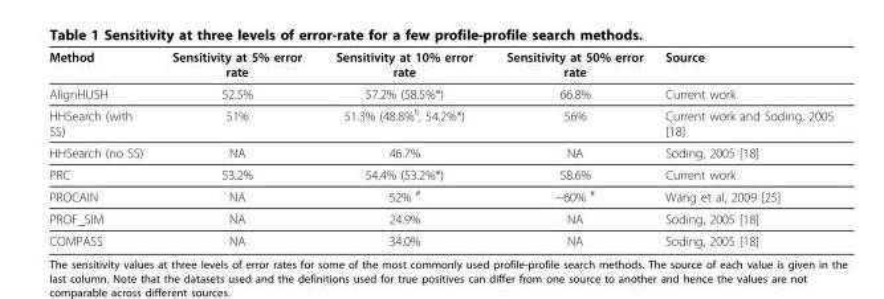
<table><thead><tr><td>Method</td><td>Sensitivity at 5% error rate</td><td>Sensitivity at 10% error rate</td><td>Sensitivity at 50% error rate</td><td>Source</td></tr></thead><tbody><tr><td>AlignHUSH</td><td>52.5%</td><td>57.2% (58.5%*)</td><td>66.8%</td><td>Current work</td></tr><tr><td>HHSearch (with SS)</td><td>51%</td><td>51.3% (48.8%<sup>§</sup>, 54.2%*)</td><td>56%</td><td>Current work and Soding, 2005 [18]</td></tr><tr><td>HHSearch (no SS)</td><td>NA</td><td>46.7%</td><td>NA</td><td>Soding, 2005 [18]</td></tr><tr><td>PRC</td><td>53.2%</td><td>54.4% (53.2%*)</td><td>58.6%</td><td>Current work</td></tr><tr><td>PROCAIN</td><td>NA</td><td>52% <sup>#</sup></td><td>~60% <sup>#</sup></td><td>Wang et al, 2009 [25]</td></tr><tr><td>PROF_SIM</td><td>NA</td><td>24.9%</td><td>NA</td><td>Soding, 2005 [18]</td></tr><tr><td>COMPASS</td><td>NA</td><td>34.0%</td><td>NA</td><td>Soding, 2005 [18]</td></tr></tbody></table>